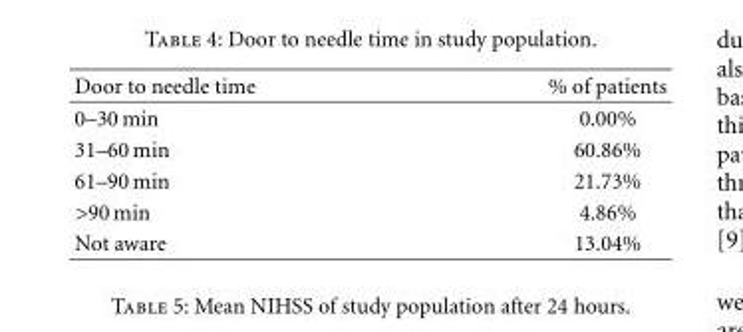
<table><thead><tr><td>Door to needle time</td><td>% of patients</td></tr></thead><tbody><tr><td>0–30 min</td><td>0.00%</td></tr><tr><td>31–60 min</td><td>60.86%</td></tr><tr><td>61–90 min</td><td>21.73%</td></tr><tr><td>&gt;90 min</td><td>4.86%</td></tr><tr><td>Not aware</td><td>13.04%</td></tr></tbody></table>